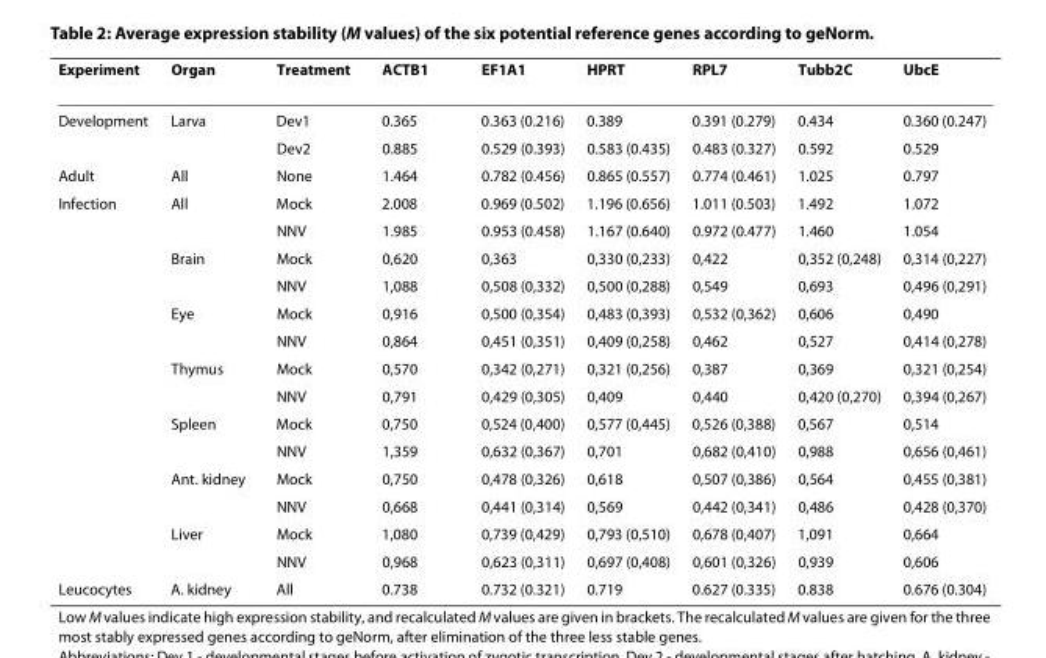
<table><thead><tr><td>Experiment</td><td>Organ</td><td>Treatment</td><td>ACTB1</td><td>EF1A1</td><td>HPRT</td><td>RPL7</td><td>Tubb2C</td><td>UbcE</td></tr></thead><tbody><tr><td rowspan="2">Development</td><td>Larva</td><td>Dev1</td><td>0.365</td><td>0.363 (0.216)</td><td>0.389</td><td>0.391 (0.279)</td><td>0.434</td><td>0.360 (0.247)</td></tr><tr><td></td><td>Dev2</td><td>0.885</td><td>0.529 (0.393)</td><td>0.583 (0.435)</td><td>0.483 (0.327)</td><td>0.592</td><td>0.529</td></tr><tr><td>Adult</td><td>All</td><td>None</td><td>1.464</td><td>0.782 (0.456)</td><td>0.865 (0.557)</td><td>0.774 (0.461)</td><td>1.025</td><td>0.797</td></tr><tr><td rowspan="14">Infection</td><td>All</td><td>Mock</td><td>2.008</td><td>0.969 (0.502)</td><td>1.196 (0.656)</td><td>1.011 (0.503)</td><td>1.492</td><td>1.072</td></tr><tr><td></td><td>NNV</td><td>1.985</td><td>0.953 (0.458)</td><td>1.167 (0.640)</td><td>0.972 (0.477)</td><td>1.460</td><td>1.054</td></tr><tr><td>Brain</td><td>Mock</td><td>0,620</td><td>0,363</td><td>0,330 (0,233)</td><td>0,422</td><td>0,352 (0,248)</td><td>0,314 (0,227)</td></tr><tr><td></td><td>NNV</td><td>1,088</td><td>0,508 (0,332)</td><td>0,500 (0,288)</td><td>0,549</td><td>0,693</td><td>0,496 (0,291)</td></tr><tr><td>Eye</td><td>Mock</td><td>0,916</td><td>0,500 (0,354)</td><td>0,483 (0,393)</td><td>0,532 (0,362)</td><td>0,606</td><td>0,490</td></tr><tr><td></td><td>NNV</td><td>0,864</td><td>0,451 (0,351)</td><td>0,409 (0,258)</td><td>0,462</td><td>0,527</td><td>0,414 (0,278)</td></tr><tr><td>Thymus</td><td>Mock</td><td>0,570</td><td>0,342 (0,271)</td><td>0,321 (0,256)</td><td>0,387</td><td>0,369</td><td>0,321 (0,254)</td></tr><tr><td></td><td>NNV</td><td>0,791</td><td>0,429 (0,305)</td><td>0,409</td><td>0,440</td><td>0,420 (0,270)</td><td>0,394 (0,267)</td></tr><tr><td>Spleen</td><td>Mock</td><td>0,750</td><td>0,524 (0,400)</td><td>0,577 (0,445)</td><td>0,526 (0,388)</td><td>0,567</td><td>0,514</td></tr><tr><td></td><td>NNV</td><td>1,359</td><td>0,632 (0,367)</td><td>0,701</td><td>0,682 (0,410)</td><td>0,988</td><td>0,656 (0,461)</td></tr><tr><td>Ant. kidney</td><td>Mock</td><td>0,750</td><td>0,478 (0,326)</td><td>0,618</td><td>0,507 (0,386)</td><td>0,564</td><td>0,455 (0,381)</td></tr><tr><td></td><td>NNV</td><td>0,668</td><td>0,441 (0,314)</td><td>0,569</td><td>0,442 (0,341)</td><td>0,486</td><td>0,428 (0,370)</td></tr><tr><td>Liver</td><td>Mock</td><td>1,080</td><td>0,739 (0,429)</td><td>0,793 (0,510)</td><td>0,678 (0,407)</td><td>1,091</td><td>0,664</td></tr><tr><td></td><td>NNV</td><td>0,968</td><td>0,623 (0,311)</td><td>0,697 (0,408)</td><td>0,601 (0,326)</td><td>0,939</td><td>0,606</td></tr><tr><td>Leucocytes</td><td>A. kidney</td><td>All</td><td>0.738</td><td>0.732 (0.321)</td><td>0.719</td><td>0.627 (0.335)</td><td>0.838</td><td>0.676 (0.304)</td></tr></tbody></table>